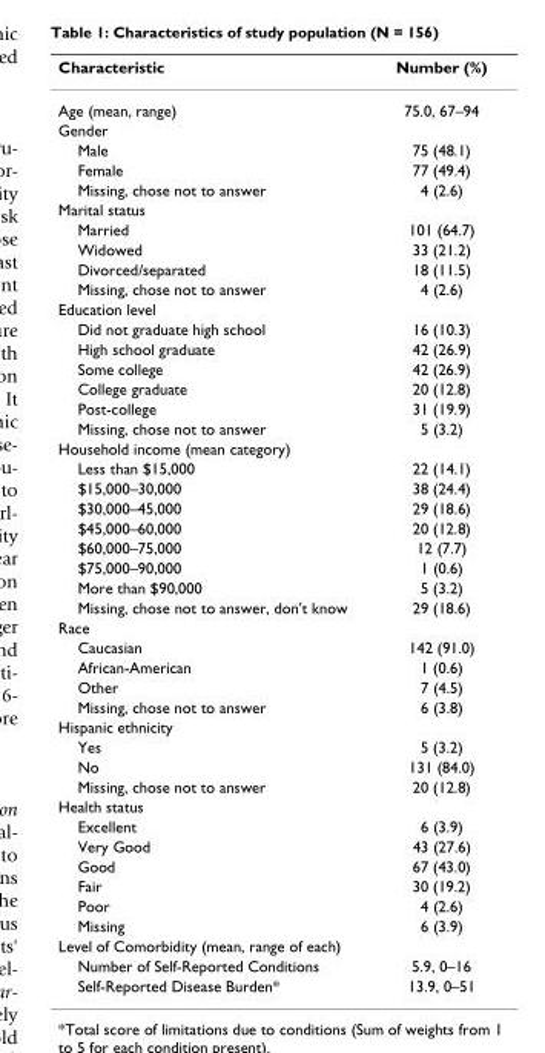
<table><thead><tr><td>Characteristic</td><td>Number (%)</td></tr></thead><tbody><tr><td>Age (mean, range)</td><td>75.0, 67–94</td></tr><tr><td colspan="2">Gender</td></tr><tr><td>Male</td><td>75 (48.1)</td></tr><tr><td>Female</td><td>77 (49.4)</td></tr><tr><td>Missing, chose not to answer</td><td>4 (2.6)</td></tr><tr><td colspan="2">Marital status</td></tr><tr><td>Married</td><td>101 (64.7)</td></tr><tr><td>Widowed</td><td>33 (21.2)</td></tr><tr><td>Divorced/separated</td><td>18 (11.5)</td></tr><tr><td>Missing, chose not to answer</td><td>4 (2.6)</td></tr><tr><td colspan="2">Education level</td></tr><tr><td>Did not graduate high school</td><td>16 (10.3)</td></tr><tr><td>High school graduate</td><td>42 (26.9)</td></tr><tr><td>Some college</td><td>42 (26.9)</td></tr><tr><td>College graduate</td><td>20 (12.8)</td></tr><tr><td>Post-college</td><td>31 (19.9)</td></tr><tr><td>Missing, chose not to answer</td><td>5 (3.2)</td></tr><tr><td colspan="2">Household income (mean category)</td></tr><tr><td>Less than $15,000</td><td>22 (14.1)</td></tr><tr><td>$15,000–30,000</td><td>38 (24.4)</td></tr><tr><td>$30,000–45,000</td><td>29 (18.6)</td></tr><tr><td>$45,000–60,000</td><td>20 (12.8)</td></tr><tr><td>$60,000–75,000</td><td>12 (7.7)</td></tr><tr><td>$75,000–90,000</td><td>1 (0.6)</td></tr><tr><td>More than $90,000</td><td>5 (3.2)</td></tr><tr><td>Missing, chose not to answer, don&#x27;t know</td><td>29 (18.6)</td></tr><tr><td colspan="2">Race</td></tr><tr><td>Caucasian</td><td>142 (91.0)</td></tr><tr><td>African-American</td><td>1 (0.6)</td></tr><tr><td>Other</td><td>7 (4.5)</td></tr><tr><td>Missing, chose not to answer</td><td>6 (3.8)</td></tr><tr><td colspan="2">Hispanic ethnicity</td></tr><tr><td>Yes</td><td>5 (3.2)</td></tr><tr><td>No</td><td>131 (84.0)</td></tr><tr><td>Missing, chose not to answer</td><td>20 (12.8)</td></tr><tr><td colspan="2">Health status</td></tr><tr><td>Excellent</td><td>6 (3.9)</td></tr><tr><td>Very Good</td><td>43 (27.6)</td></tr><tr><td>Good</td><td>67 (43.0)</td></tr><tr><td>Fair</td><td>30 (19.2)</td></tr><tr><td>Poor</td><td>4 (2.6)</td></tr><tr><td>Missing</td><td>6 (3.9)</td></tr><tr><td colspan="2">Level of Comorbidity (mean, range of each)</td></tr><tr><td>Number of Self-Reported Conditions</td><td>5.9, 0–16</td></tr><tr><td>Self-Reported Disease Burden*</td><td>13.9, 0–51</td></tr></tbody></table>